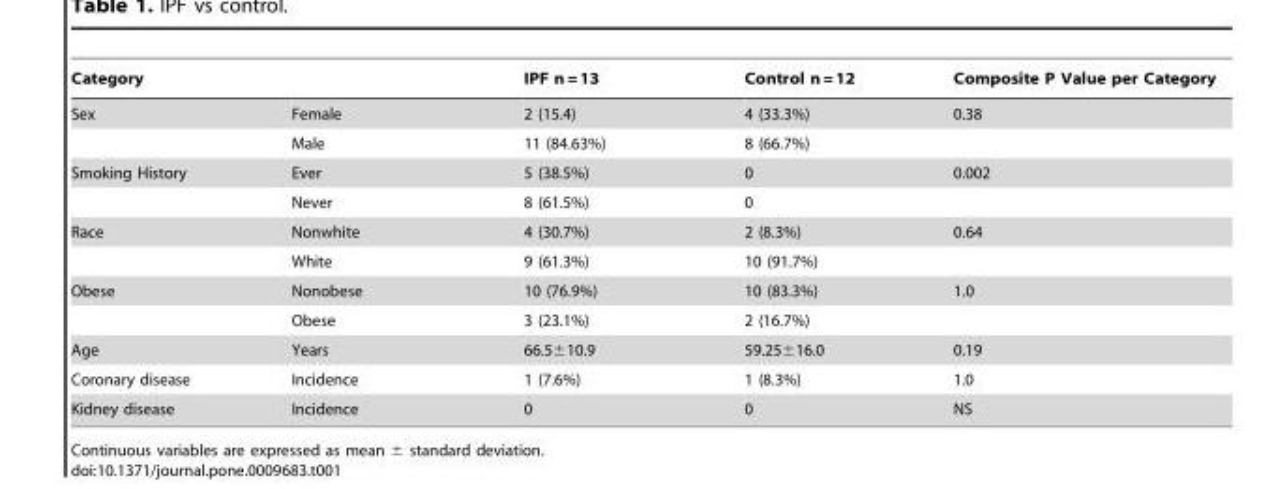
<table><thead><tr><td>Category</td><td></td><td>IPF n = 13</td><td>Control n = 12</td><td>Composite P Value per Category</td></tr></thead><tbody><tr><td rowspan="2">Sex</td><td>Female</td><td>2 (15.4)</td><td>4 (33.3%)</td><td>0.38</td></tr><tr><td>Male</td><td>11 (84.63%)</td><td>8 (66.7%)</td><td></td></tr><tr><td rowspan="2">Smoking History</td><td>Ever</td><td>5 (38.5%)</td><td>0</td><td>0.002</td></tr><tr><td>Never</td><td>8 (61.5%)</td><td>0</td><td></td></tr><tr><td rowspan="2">Race</td><td>Nonwhite</td><td>4 (30.7%)</td><td>2 (8.3%)</td><td>0.64</td></tr><tr><td>White</td><td>9 (61.3%)</td><td>10 (91.7%)</td><td></td></tr><tr><td rowspan="2">Obese</td><td>Nonobese</td><td>10 (76.9%)</td><td>10 (83.3%)</td><td>1.0</td></tr><tr><td>Obese</td><td>3 (23.1%)</td><td>2 (16.7%)</td><td></td></tr><tr><td>Age</td><td>Years</td><td>66.5±10.9</td><td>59.25±16.0</td><td>0.19</td></tr><tr><td>Coronary disease</td><td>Incidence</td><td>1 (7.6%)</td><td>1 (8.3%)</td><td>1.0</td></tr><tr><td>Kidney disease</td><td>Incidence</td><td>0</td><td>0</td><td>NS</td></tr></tbody></table>